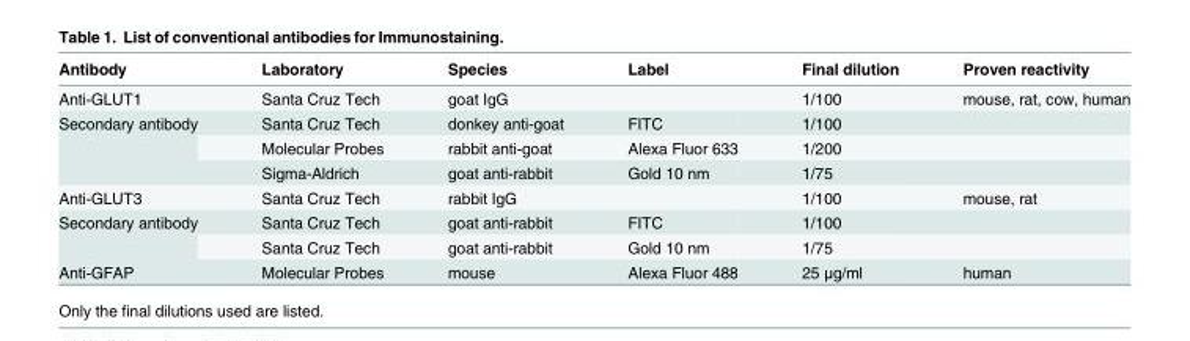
<table><thead><tr><td>Antibody</td><td>Laboratory</td><td>Species</td><td>Label</td><td>Final dilution</td><td>Proven reactivity</td></tr></thead><tbody><tr><td>Anti-GLUT1</td><td>Santa Cruz Tech</td><td>goat IgG</td><td></td><td>1/100</td><td>mouse, rat, cow, human</td></tr><tr><td rowspan="3">Secondary antibody</td><td>Santa Cruz Tech</td><td>donkey anti-goat</td><td>FITC</td><td>1/100</td><td></td></tr><tr><td>Molecular Probes</td><td>rabbit anti-goat</td><td>Alexa Fluor 633</td><td>1/200</td><td></td></tr><tr><td>Sigma-Aldrich</td><td>goat anti-rabbit</td><td>Gold 10 nm</td><td>1/75</td><td></td></tr><tr><td>Anti-GLUT3</td><td>Santa Cruz Tech</td><td>rabbit IgG</td><td></td><td>1/100</td><td>mouse, rat</td></tr><tr><td rowspan="2">Secondary antibody</td><td>Santa Cruz Tech</td><td>goat anti-rabbit</td><td>FITC</td><td>1/100</td><td></td></tr><tr><td>Santa Cruz Tech</td><td>goat anti-rabbit</td><td>Gold 10 nm</td><td>1/75</td><td></td></tr><tr><td>Anti-GFAP</td><td>Molecular Probes</td><td>mouse</td><td>Alexa Fluor 488</td><td>25 μg/ml</td><td>human</td></tr></tbody></table>